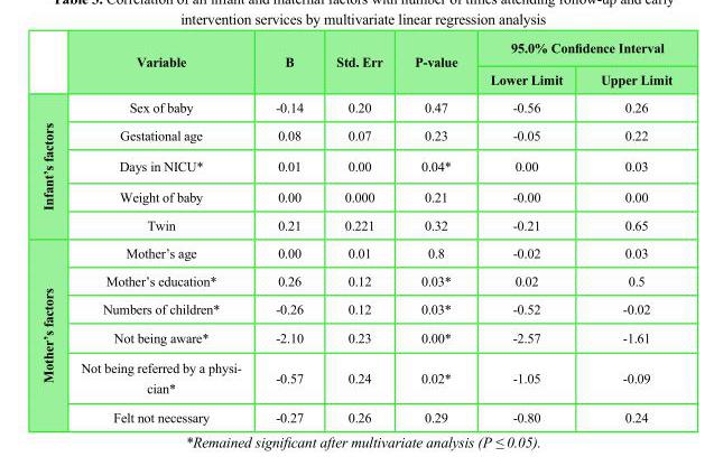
<table><thead><tr><td rowspan="2"></td><td rowspan="2">Variable</td><td rowspan="2">B</td><td rowspan="2">Std. Err</td><td rowspan="2">P-value</td><td colspan="2">95.0% Confidence Interval</td></tr><tr><td>Lower Limit</td><td>Upper Limit</td></tr></thead><tbody><tr><td rowspan="5">Infant’s factors</td><td>Sex of baby</td><td>-0.14</td><td>0.20</td><td>0.47</td><td>-0.56</td><td>0.26</td></tr><tr><td>Gestational age</td><td>0.08</td><td>0.07</td><td>0.23</td><td>-0.05</td><td>0.22</td></tr><tr><td>Days in NICU*</td><td>0.01</td><td>0.00</td><td>0.04*</td><td>0.00</td><td>0.03</td></tr><tr><td>Weight of baby</td><td>0.00</td><td>0.000</td><td>0.21</td><td>-0.00</td><td>0.00</td></tr><tr><td>Twin</td><td>0.21</td><td>0.221</td><td>0.32</td><td>-0.21</td><td>0.65</td></tr><tr><td rowspan="6">Mother’s factors</td><td>Mother’s age</td><td>0.00</td><td>0.01</td><td>0.8</td><td>-0.02</td><td>0.03</td></tr><tr><td>Mother’s education*</td><td>0.26</td><td>0.12</td><td>0.03*</td><td>0.02</td><td>0.5</td></tr><tr><td>Numbers of children*</td><td>-0.26</td><td>0.12</td><td>0.03*</td><td>-0.52</td><td>-0.02</td></tr><tr><td>Not being aware*</td><td>-2.10</td><td>0.23</td><td>0.00*</td><td>-2.57</td><td>-1.61</td></tr><tr><td>Not being referred by a physi- cian*</td><td>-0.57</td><td>0.24</td><td>0.02*</td><td>-1.05</td><td>-0.09</td></tr><tr><td>Felt not necessary</td><td>-0.27</td><td>0.26</td><td>0.29</td><td>-0.80</td><td>0.24</td></tr></tbody></table>